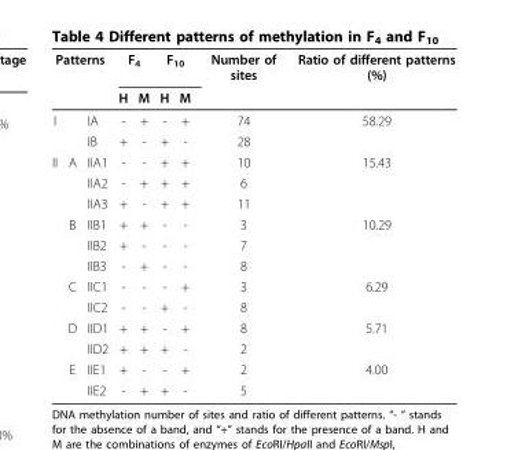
<table><thead><tr><td colspan="3">Patterns</td><td colspan="2">F<sub>4</sub></td><td colspan="2">F<sub>10</sub></td><td rowspan="2">Number of sites</td><td rowspan="2">Ratio of different patterns (%)</td></tr><tr><td></td><td></td><td></td><td>H</td><td>M</td><td>H</td><td>M</td></tr></thead><tbody><tr><td rowspan="2">I</td><td></td><td>IA</td><td>-</td><td>+</td><td>-</td><td>+</td><td>74</td><td>58.29</td></tr><tr><td></td><td>IB</td><td>+</td><td>-</td><td>+</td><td>-</td><td>28</td><td></td></tr><tr><td rowspan="12">II</td><td>A</td><td>IIA1</td><td>-</td><td>-</td><td>+</td><td>+</td><td>10</td><td>15.43</td></tr><tr><td></td><td>IIA2</td><td>-</td><td>+</td><td>+</td><td>+</td><td>6</td><td></td></tr><tr><td></td><td>IIA3</td><td>+</td><td>-</td><td>+</td><td>+</td><td>11</td><td></td></tr><tr><td>B</td><td>IIB1</td><td>+</td><td>+</td><td>-</td><td>-</td><td>3</td><td>10.29</td></tr><tr><td></td><td>IIB2</td><td>+</td><td>-</td><td>-</td><td>-</td><td>7</td><td></td></tr><tr><td></td><td>IIB3</td><td>-</td><td>+</td><td>-</td><td>-</td><td>8</td><td></td></tr><tr><td>C</td><td>IIC1</td><td>-</td><td>-</td><td>-</td><td>+</td><td>3</td><td>6.29</td></tr><tr><td></td><td>IIC2</td><td>-</td><td>-</td><td>+</td><td>-</td><td>8</td><td></td></tr><tr><td>D</td><td>IID1</td><td>+</td><td>+</td><td>-</td><td>+</td><td>8</td><td>5.71</td></tr><tr><td></td><td>IID2</td><td>+</td><td>+</td><td>+</td><td>-</td><td>2</td><td></td></tr><tr><td>E</td><td>IIE1</td><td>+</td><td>-</td><td>-</td><td>+</td><td>2</td><td>4.00</td></tr><tr><td></td><td>IIE2</td><td>-</td><td>+</td><td>+</td><td>-</td><td>5</td><td></td></tr></tbody></table>